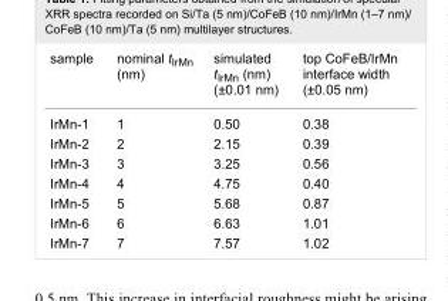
<table><tbody><tr><td>sample</td><td>nominal t<sub>IrMn</sub> (nm)</td><td>simulated t<sub>IrMn</sub> (nm) (±0.01 nm)</td><td>top CoFeB/IrMn interface width (±0.05 nm)</td></tr><tr><td>IrMn-1</td><td>1</td><td>0.50</td><td>0.38</td></tr><tr><td>IrMn-2</td><td>2</td><td>2.15</td><td>0.39</td></tr><tr><td>IrMn-3</td><td>3</td><td>3.25</td><td>0.56</td></tr><tr><td>IrMn-4</td><td>4</td><td>4.75</td><td>0.40</td></tr><tr><td>IrMn-5</td><td>5</td><td>5.68</td><td>0.87</td></tr><tr><td>IrMn-6</td><td>6</td><td>6.63</td><td>1.01</td></tr><tr><td>IrMn-7</td><td>7</td><td>7.57</td><td>1.02</td></tr></tbody></table>